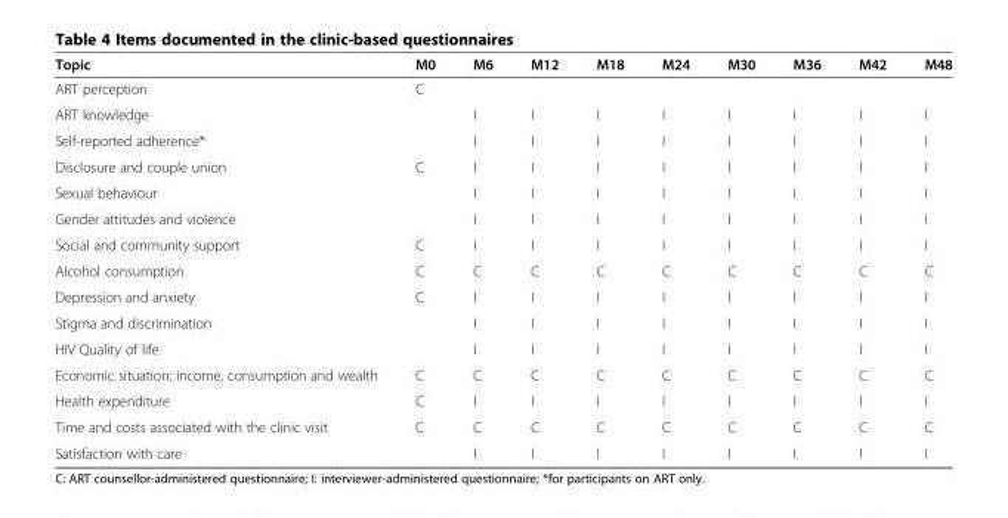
<table><thead><tr><td>Topic</td><td>M0</td><td>M6</td><td>M12</td><td>M18</td><td>M24</td><td>M30</td><td>M36</td><td>M42</td><td>M48</td></tr></thead><tbody><tr><td>ART perception</td><td>C</td><td></td><td></td><td></td><td></td><td></td><td></td><td></td><td></td></tr><tr><td>ART knowledge</td><td></td><td>I</td><td>I</td><td>I</td><td>I</td><td>I</td><td>I</td><td>I</td><td>I</td></tr><tr><td>Self-reported adherence*<sup>,</sup></td><td></td><td>I</td><td>I</td><td>I</td><td>I</td><td>I</td><td>I</td><td>I</td><td>I</td></tr><tr><td>Disclosure and couple union</td><td>C</td><td>I</td><td>I</td><td>I</td><td>I</td><td>I</td><td>I</td><td>I</td><td>I</td></tr><tr><td>Sexual behaviour</td><td></td><td>I</td><td>I</td><td>I</td><td>I</td><td>I</td><td>I</td><td>I</td><td>I</td></tr><tr><td>Gender attitudes and violence</td><td></td><td>I</td><td>I</td><td>I</td><td>I</td><td>I</td><td>I</td><td>I</td><td>I</td></tr><tr><td>Social and community support</td><td>C</td><td>I</td><td>I</td><td>I</td><td>I</td><td>I</td><td>I</td><td>I</td><td>I</td></tr><tr><td>Alcohol consumption</td><td>C</td><td>C</td><td>C</td><td>C</td><td>C</td><td>C</td><td>C</td><td>C</td><td>C</td></tr><tr><td>Depression and anxiety</td><td>C</td><td>I</td><td>I</td><td>I</td><td>I</td><td>I</td><td>I</td><td>I</td><td>I</td></tr><tr><td>Stigma and discrimination</td><td></td><td>I</td><td>I</td><td>I</td><td>I</td><td>I</td><td>I</td><td>I</td><td>I</td></tr><tr><td>HIV Quality of life</td><td></td><td>I</td><td>I</td><td>I</td><td>I</td><td>I</td><td>I</td><td>I</td><td>I</td></tr><tr><td>Economic situation: income, consumption and wealth</td><td>C</td><td>C</td><td>C</td><td>C</td><td>C</td><td>C</td><td>C</td><td>C</td><td>C</td></tr><tr><td>Health expenditure</td><td>C</td><td>I</td><td>I</td><td>I</td><td>I</td><td>I</td><td>I</td><td>I</td><td>I</td></tr><tr><td>Time and costs associated with the clinic visit</td><td>C</td><td>C</td><td>C</td><td>C</td><td>C</td><td>C</td><td>C</td><td>C</td><td>C</td></tr><tr><td>Satisfaction with care</td><td></td><td>I</td><td>I</td><td>I</td><td>I</td><td>I</td><td>I</td><td>I</td><td>I</td></tr></tbody></table>